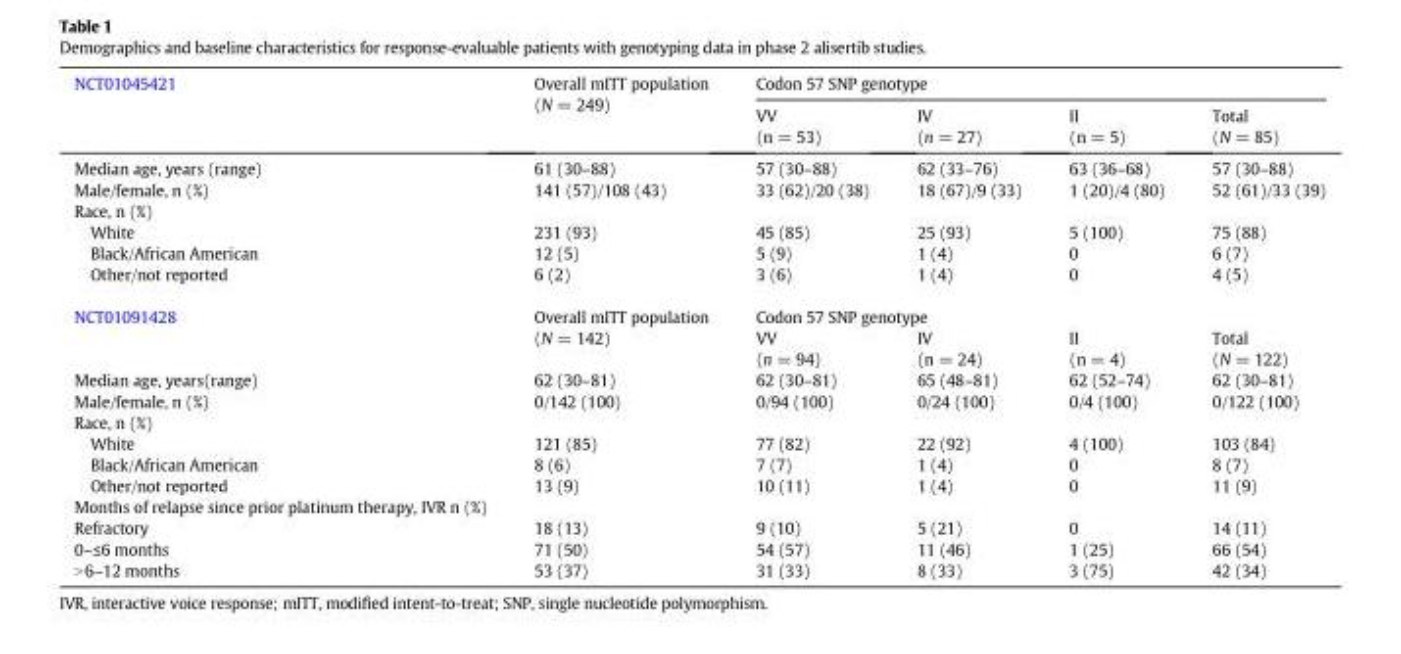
<table><thead><tr><td rowspan="2">NCT01045421</td><td rowspan="2">Overall mITT population (N = 249)</td><td colspan="4">Codon 57 SNP genotype</td></tr><tr><td>VV (n = 53)</td><td>IV (n = 27)</td><td>II (n = 5)</td><td>Total (N = 85)</td></tr></thead><tbody><tr><td>Median age, years (range)</td><td>61 (30–88)</td><td>57 (30–88)</td><td>62 (33–76)</td><td>63 (36–68)</td><td>57 (30–88)</td></tr><tr><td>Male/female, n (%)</td><td>141 (57)/108 (43)</td><td>33 (62)/20 (38)</td><td>18 (67)/9 (33)</td><td>1 (20)/4 (80)</td><td>52 (61)/33 (39)</td></tr><tr><td colspan="6">Race, n (%)</td></tr><tr><td>White</td><td>231 (93)</td><td>45 (85)</td><td>25 (93)</td><td>5 (100)</td><td>75 (88)</td></tr><tr><td>Black/African American</td><td>12 (5)</td><td>5 (9)</td><td>1 (4)</td><td>0</td><td>6 (7)</td></tr><tr><td>Other/not reported</td><td>6 (2)</td><td>3 (6)</td><td>1 (4)</td><td>0</td><td>4 (5)</td></tr><tr><td rowspan="2">NCT01091428</td><td rowspan="2">Overall mITT population (N = 142)</td><td colspan="4">Codon 57 SNP genotype</td></tr><tr><td>VV (n = 94)</td><td>IV (n = 24)</td><td>II (n = 4)</td><td>Total (N = 122)</td></tr><tr><td>Median age, years(range)</td><td>62 (30–81)</td><td>62 (30–81)</td><td>65 (48–81)</td><td>62 (52–74)</td><td>62 (30–81)</td></tr><tr><td>Male/female, n (%)</td><td>0/142 (100)</td><td>0/94 (100)</td><td>0/24 (100)</td><td>0/4 (100)</td><td>0/122 (100)</td></tr><tr><td colspan="6">Race, n (%)</td></tr><tr><td>White</td><td>121 (85)</td><td>77 (82)</td><td>22 (92)</td><td>4 (100)</td><td>103 (84)</td></tr><tr><td>Black/African American</td><td>8 (6)</td><td>7 (7)</td><td>1 (4)</td><td>0</td><td>8 (7)</td></tr><tr><td>Other/not reported</td><td>13 (9)</td><td>10 (11)</td><td>1 (4)</td><td>0</td><td>11 (9)</td></tr><tr><td colspan="6">Months of relapse since prior platinum therapy, IVR n (%)</td></tr><tr><td>Refractory</td><td>18 (13)</td><td>9 (10)</td><td>5 (21)</td><td>0</td><td>14 (11)</td></tr><tr><td>0–≤6 months</td><td>71 (50)</td><td>54 (57)</td><td>11 (46)</td><td>1 (25)</td><td>66 (54)</td></tr><tr><td>&gt;6–12 months</td><td>53 (37)</td><td>31 (33)</td><td>8 (33)</td><td>3 (75)</td><td>42 (34)</td></tr></tbody></table>